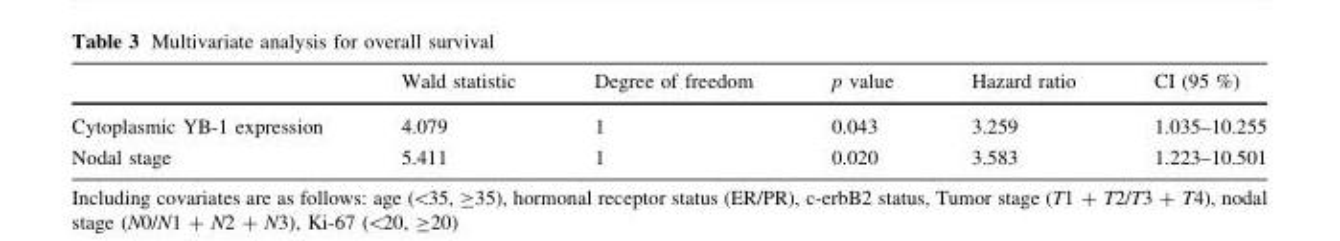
<table><thead><tr><td></td><td>Wald statistic</td><td>Degree of freedom</td><td>p value</td><td>Hazard ratio</td><td>CI (95 %)</td></tr></thead><tbody><tr><td>Cytoplasmic YB-1 expression</td><td>4.079</td><td>1</td><td>0.043</td><td>3.259</td><td>1.035–10.255</td></tr><tr><td>Nodal stage</td><td>5.411</td><td>1</td><td>0.020</td><td>3.583</td><td>1.223–10.501</td></tr></tbody></table>